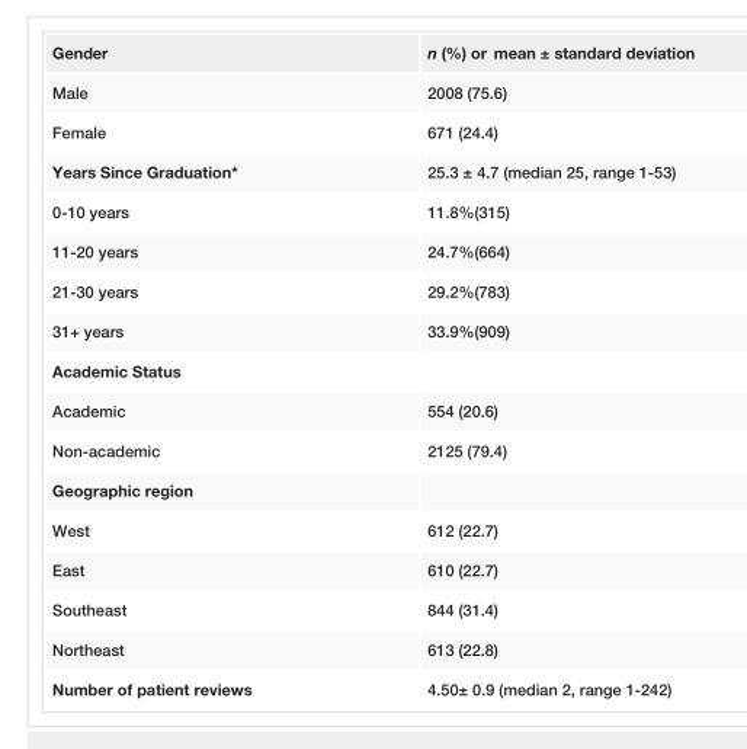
<table><tbody><tr><td>Gender</td><td>n (%) or mean ± standard deviation</td></tr><tr><td>Male</td><td>2008 (75.6)</td></tr><tr><td>Female</td><td>671 (24.4)</td></tr><tr><td>Years Since Graduation*</td><td>25.3 ± 4.7 (median 25, range 1-53)</td></tr><tr><td>0-10 years</td><td>11.8%(315)</td></tr><tr><td>11-20 years</td><td>24.7%(664)</td></tr><tr><td>21-30 years</td><td>29.2%(783)</td></tr><tr><td>31+ years</td><td>33.9%(909)</td></tr><tr><td colspan="2">Academic Status</td></tr><tr><td>Academic</td><td>554 (20.6)</td></tr><tr><td>Non-academic</td><td>2125 (79.4)</td></tr><tr><td colspan="2">Geographic region</td></tr><tr><td>West</td><td>612 (22.7)</td></tr><tr><td>East</td><td>610 (22.7)</td></tr><tr><td>Southeast</td><td>844 (31.4)</td></tr><tr><td>Northeast</td><td>613 (22.8)</td></tr><tr><td>Number of patient reviews</td><td>4.50± 0.9 (median 2, range 1-242)</td></tr></tbody></table>